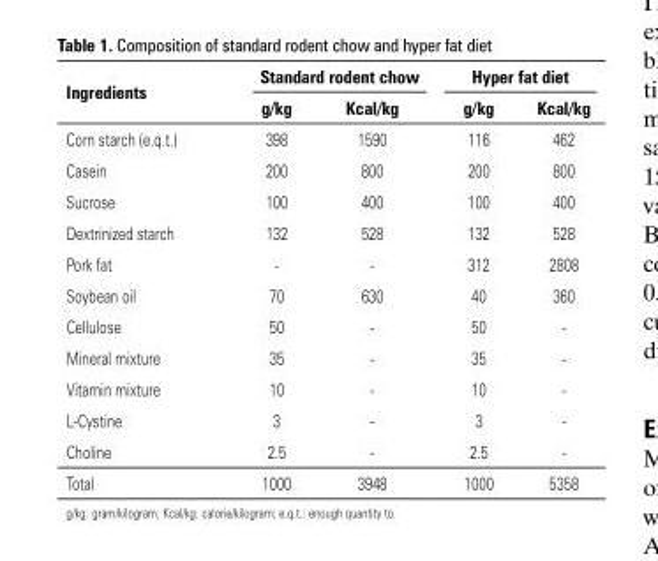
<table><thead><tr><td rowspan="2">Ingredients</td><td colspan="2">Standard rodent chow</td><td colspan="2">Hyper fat diet</td></tr><tr><td>g/kg</td><td>Kcal/kg</td><td>g/kg</td><td>Kcal/kg</td></tr></thead><tbody><tr><td>Corn starch (e.q.t.)</td><td>398</td><td>1590</td><td>116</td><td>462</td></tr><tr><td>Casein</td><td>200</td><td>800</td><td>200</td><td>800</td></tr><tr><td>Sucrose</td><td>100</td><td>400</td><td>100</td><td>400</td></tr><tr><td>Dextrinized starch</td><td>132</td><td>528</td><td>132</td><td>528</td></tr><tr><td>Pork fat</td><td>-</td><td>-</td><td>312</td><td>2808</td></tr><tr><td>Soybean oil</td><td>70</td><td>630</td><td>40</td><td>360</td></tr><tr><td>Cellulose</td><td>50</td><td>-</td><td>50</td><td>-</td></tr><tr><td>Mineral mixture</td><td>35</td><td>-</td><td>35</td><td>-</td></tr><tr><td>Vitamin mixture</td><td>10</td><td>-</td><td>10</td><td>-</td></tr><tr><td>L-Cystine</td><td>3</td><td>-</td><td>3</td><td>-</td></tr><tr><td>Choline</td><td>2.5</td><td>-</td><td>2.5</td><td>-</td></tr><tr><td>Total</td><td>1000</td><td>3948</td><td>1000</td><td>5358</td></tr></tbody></table>